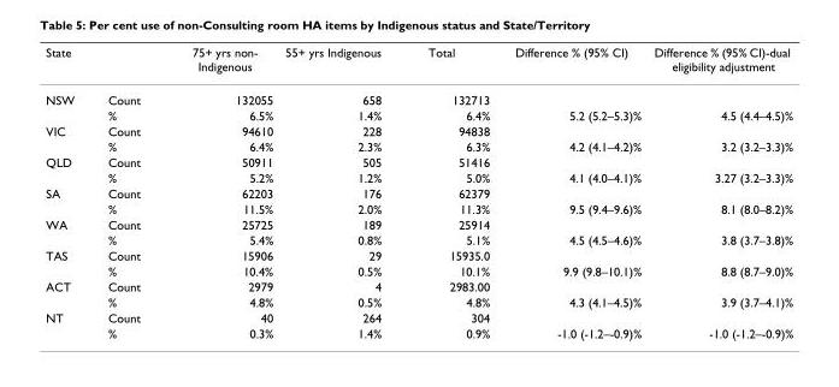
<table><thead><tr><td>State</td><td></td><td>75+ yrs non- Indigenous</td><td>55+ yrs Indigenous</td><td>Total</td><td>Difference % (95% CI)</td><td>Difference % (95% CI)-dual eligibility adjustment</td></tr></thead><tbody><tr><td rowspan="2">NSW</td><td>Count</td><td>132055</td><td>658</td><td>132713</td><td></td><td></td></tr><tr><td>%</td><td>6.5%</td><td>1.4%</td><td>6.4%</td><td>5.2 (5.2–5.3)%</td><td>4.5 (4.4–4.5)%</td></tr><tr><td rowspan="2">VIC</td><td>Count</td><td>94610</td><td>228</td><td>94838</td><td></td><td></td></tr><tr><td>%</td><td>6.4%</td><td>2.3%</td><td>6.3%</td><td>4.2 (4.1–4.2)%</td><td>3.2 (3.2–3.3)%</td></tr><tr><td rowspan="2">QLD</td><td>Count</td><td>50911</td><td>505</td><td>51416</td><td></td><td></td></tr><tr><td>%</td><td>5.2%</td><td>1.2%</td><td>5.0%</td><td>4.1 (4.0–4.1)%</td><td>3.27 (3.2–3.3)%</td></tr><tr><td rowspan="2">SA</td><td>Count</td><td>62203</td><td>176</td><td>62379</td><td></td><td></td></tr><tr><td>%</td><td>11.5%</td><td>2.0%</td><td>11.3%</td><td>9.5 (9.4–9.6)%</td><td>8.1 (8.0–8.2)%</td></tr><tr><td rowspan="2">WA</td><td>Count</td><td>25725</td><td>189</td><td>25914</td><td></td><td></td></tr><tr><td>%</td><td>5.4%</td><td>0.8%</td><td>5.1%</td><td>4.5 (4.5–4.6)%</td><td>3.8 (3.7–3.8)%</td></tr><tr><td rowspan="2">TAS</td><td>Count</td><td>15906</td><td>29</td><td>15935.0</td><td></td><td></td></tr><tr><td>%</td><td>10.4%</td><td>0.5%</td><td>10.1%</td><td>9.9 (9.8–10.1)%</td><td>8.8 (8.7–9.0)%</td></tr><tr><td rowspan="2">ACT</td><td>Count</td><td>2979</td><td>4</td><td>2983.00</td><td></td><td></td></tr><tr><td>%</td><td>4.8%</td><td>0.5%</td><td>4.8%</td><td>4.3 (4.1–4.5)%</td><td>3.9 (3.7–4.1)%</td></tr><tr><td rowspan="2">NT</td><td>Count</td><td>40</td><td>264</td><td>304</td><td></td><td></td></tr><tr><td>%</td><td>0.3%</td><td>1.4%</td><td>0.9%</td><td>-1.0 (-1.2–-0.9)%</td><td>-1.0 (-1.2–-0.9)%</td></tr></tbody></table>